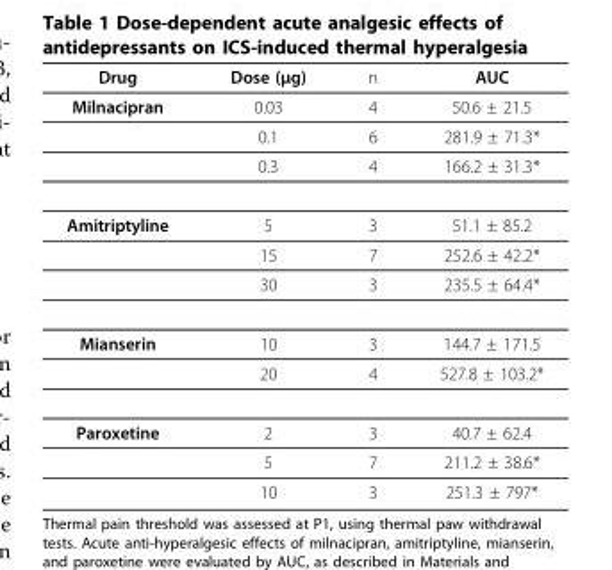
<table><thead><tr><td>Drug</td><td>Dose (μg)</td><td>n</td><td>AUC</td></tr></thead><tbody><tr><td rowspan="3">Milnacipran</td><td>0.03</td><td>4</td><td>50.6 ± 21.5</td></tr><tr><td>0.1</td><td>6</td><td>281.9 ± 71.3*</td></tr><tr><td>0.3</td><td>4</td><td>166.2 ± 31.3*</td></tr><tr><td rowspan="3">Amitriptyline</td><td>5</td><td>3</td><td>51.1 ± 85.2</td></tr><tr><td>15</td><td>7</td><td>252.6 ± 42.2*</td></tr><tr><td>30</td><td>3</td><td>235.5 ± 64.4*</td></tr><tr><td rowspan="2">Mianserin</td><td>10</td><td>3</td><td>144.7 ± 171.5</td></tr><tr><td>20</td><td>4</td><td>527.8 ± 103.2*</td></tr><tr><td rowspan="3">Paroxetine</td><td>2</td><td>3</td><td>40.7 ± 62.4</td></tr><tr><td>5</td><td>7</td><td>211.2 ± 38.6*</td></tr><tr><td>10</td><td>3</td><td>251.3 ± 797*</td></tr></tbody></table>